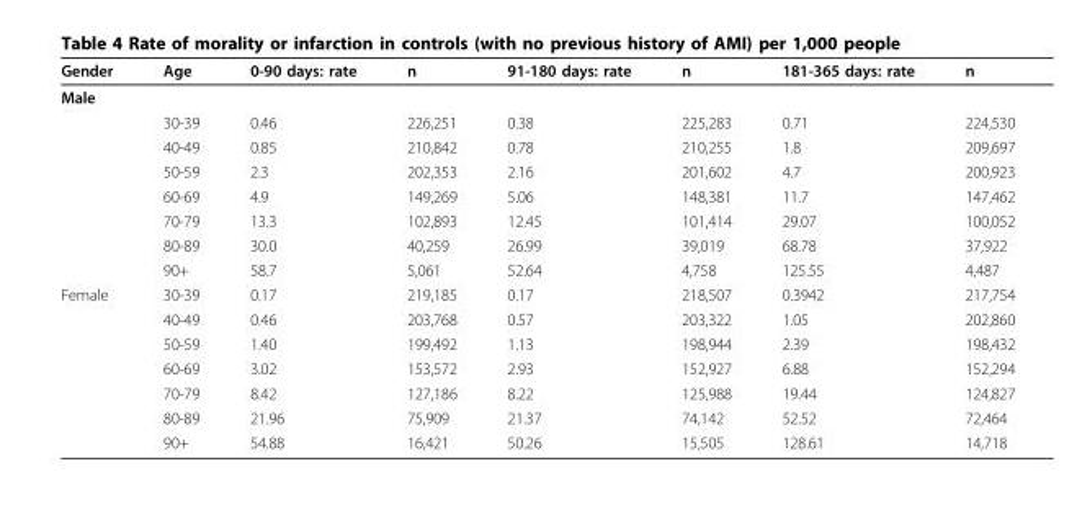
<table><thead><tr><td>Gender</td><td>Age</td><td>0-90 days: rate</td><td>n</td><td>91-180 days: rate</td><td>n</td><td>181-365 days: rate</td><td>n</td></tr></thead><tbody><tr><td colspan="8">Male</td></tr><tr><td></td><td>30-39</td><td>0.46</td><td>226,251</td><td>0.38</td><td>225,283</td><td>0.71</td><td>224,530</td></tr><tr><td></td><td>40-49</td><td>0.85</td><td>210,842</td><td>0.78</td><td>210,255</td><td>1.8</td><td>209,697</td></tr><tr><td></td><td>50-59</td><td>2.3</td><td>202,353</td><td>2.16</td><td>201,602</td><td>4.7</td><td>200,923</td></tr><tr><td></td><td>60-69</td><td>4.9</td><td>149,269</td><td>5.06</td><td>148,381</td><td>11.7</td><td>147,462</td></tr><tr><td></td><td>70-79</td><td>13.3</td><td>102,893</td><td>12.45</td><td>101,414</td><td>29.07</td><td>100,052</td></tr><tr><td></td><td>80-89</td><td>30.0</td><td>40,259</td><td>26.99</td><td>39,019</td><td>68.78</td><td>37,922</td></tr><tr><td></td><td>90+</td><td>58.7</td><td>5,061</td><td>52.64</td><td>4,758</td><td>125.55</td><td>4,487</td></tr><tr><td rowspan="7">Female</td><td>30-39</td><td>0.17</td><td>219,185</td><td>0.17</td><td>218,507</td><td>0.3942</td><td>217,754</td></tr><tr><td>40-49</td><td>0.46</td><td>203,768</td><td>0.57</td><td>203,322</td><td>1.05</td><td>202,860</td></tr><tr><td>50-59</td><td>1.40</td><td>199,492</td><td>1.13</td><td>198,944</td><td>2.39</td><td>198,432</td></tr><tr><td>60-69</td><td>3.02</td><td>153,572</td><td>2.93</td><td>152,927</td><td>6.88</td><td>152,294</td></tr><tr><td>70-79</td><td>8.42</td><td>127,186</td><td>8.22</td><td>125,988</td><td>19.44</td><td>124,827</td></tr><tr><td>80-89</td><td>21.96</td><td>75,909</td><td>21.37</td><td>74,142</td><td>52.52</td><td>72,464</td></tr><tr><td>90+</td><td>54.88</td><td>16,421</td><td>50.26</td><td>15,505</td><td>128.61</td><td>14,718</td></tr></tbody></table>